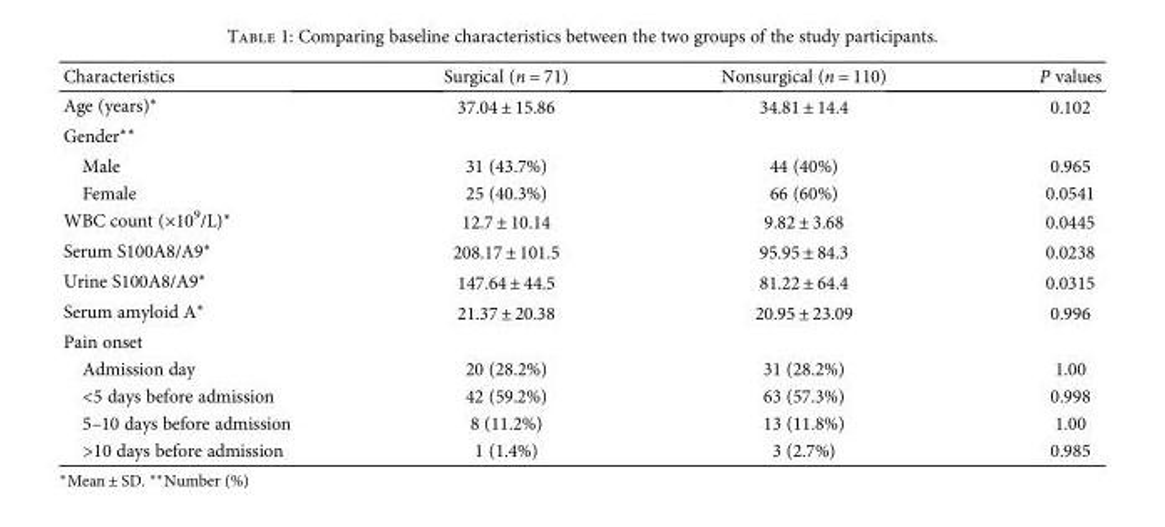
<table><thead><tr><td>Characteristics</td><td>Surgical (n = 71)</td><td>Nonsurgical (n = 110)</td><td>P values</td></tr></thead><tbody><tr><td>Age (years)∗</td><td>37.04 ± 15.86</td><td>34.81 ± 14.4</td><td>0.102</td></tr><tr><td colspan="4">Gender∗∗</td></tr><tr><td>Male</td><td>31 (43.7%)</td><td>44 (40%)</td><td>0.965</td></tr><tr><td>Female</td><td>25 (40.3%)</td><td>66 (60%)</td><td>0.0541</td></tr><tr><td>WBC count (×10<sup>9</sup>/L)∗</td><td>12.7 ± 10.14</td><td>9.82 ± 3.68</td><td>0.0445</td></tr><tr><td>Serum S100A8/A9∗</td><td>208.17 ± 101.5</td><td>95.95 ± 84.3</td><td>0.0238</td></tr><tr><td>Urine S100A8/A9∗</td><td>147.64 ± 44.5</td><td>81.22 ± 64.4</td><td>0.0315</td></tr><tr><td>Serum amyloid A∗</td><td>21.37 ± 20.38</td><td>20.95 ± 23.09</td><td>0.996</td></tr><tr><td colspan="4">Pain onset</td></tr><tr><td>Admission day</td><td>20 (28.2%)</td><td>31 (28.2%)</td><td>1.00</td></tr><tr><td>&lt;5 days before admission</td><td>42 (59.2%)</td><td>63 (57.3%)</td><td>0.998</td></tr><tr><td>5–10 days before admission</td><td>8 (11.2%)</td><td>13 (11.8%)</td><td>1.00</td></tr><tr><td>&gt;10 days before admission</td><td>1 (1.4%)</td><td>3 (2.7%)</td><td>0.985</td></tr></tbody></table>